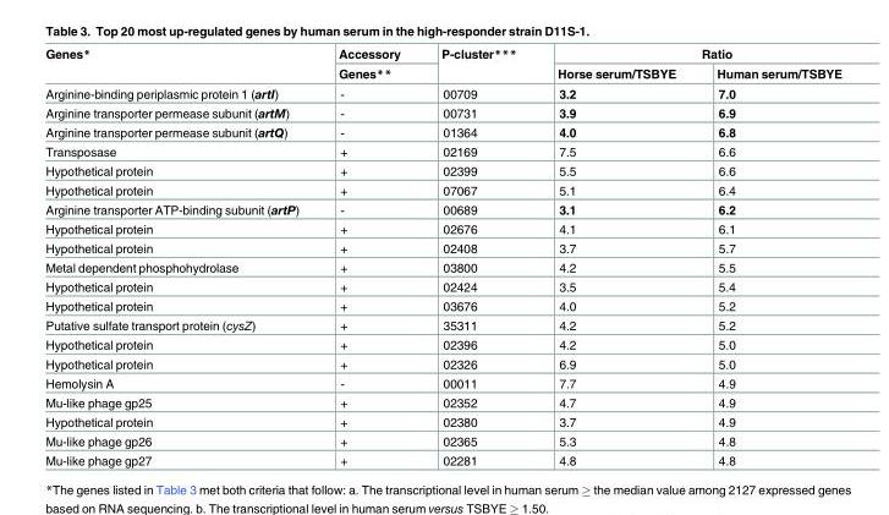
<table><thead><tr><td rowspan="2">Genes*</td><td rowspan="2">Accessory Genes**</td><td rowspan="2">P-cluster***</td><td colspan="2">Ratio</td></tr><tr><td>Horse serum/TSBYE</td><td>Human serum/TSBYE</td></tr></thead><tbody><tr><td>Arginine-binding periplasmic protein 1 (artI)</td><td>-</td><td>00709</td><td>3.2</td><td>7.0</td></tr><tr><td>Arginine transporter permease subunit (artM)</td><td>-</td><td>00731</td><td>3.9</td><td>6.9</td></tr><tr><td>Arginine transporter permease subunit (artQ)</td><td>-</td><td>01364</td><td>4.0</td><td>6.8</td></tr><tr><td>Transposase</td><td>+</td><td>02169</td><td>7.5</td><td>6.6</td></tr><tr><td>Hypothetical protein</td><td>+</td><td>02399</td><td>5.5</td><td>6.6</td></tr><tr><td>Hypothetical protein</td><td>+</td><td>07067</td><td>5.1</td><td>6.4</td></tr><tr><td>Arginine transporter ATP-binding subunit (artP)</td><td>-</td><td>00689</td><td>3.1</td><td>6.2</td></tr><tr><td>Hypothetical protein</td><td>+</td><td>02676</td><td>4.1</td><td>6.1</td></tr><tr><td>Hypothetical protein</td><td>+</td><td>02408</td><td>3.7</td><td>5.7</td></tr><tr><td>Metal dependent phosphohydrolase</td><td>+</td><td>03800</td><td>4.2</td><td>5.5</td></tr><tr><td>Hypothetical protein</td><td>+</td><td>02424</td><td>3.5</td><td>5.4</td></tr><tr><td>Hypothetical protein</td><td>+</td><td>03676</td><td>4.0</td><td>5.2</td></tr><tr><td>Putative sulfate transport protein (cysZ)</td><td>+</td><td>35311</td><td>4.2</td><td>5.2</td></tr><tr><td>Hypothetical protein</td><td>+</td><td>02396</td><td>4.2</td><td>5.0</td></tr><tr><td>Hypothetical protein</td><td>+</td><td>02326</td><td>6.9</td><td>5.0</td></tr><tr><td>Hemolysin A</td><td>-</td><td>00011</td><td>7.7</td><td>4.9</td></tr><tr><td>Mu-like phage gp25</td><td>+</td><td>02352</td><td>4.7</td><td>4.9</td></tr><tr><td>Hypothetical protein</td><td>+</td><td>02380</td><td>3.7</td><td>4.9</td></tr><tr><td>Mu-like phage gp26</td><td>+</td><td>02365</td><td>5.3</td><td>4.8</td></tr><tr><td>Mu-like phage gp27</td><td>+</td><td>02281</td><td>4.8</td><td>4.8</td></tr></tbody></table>